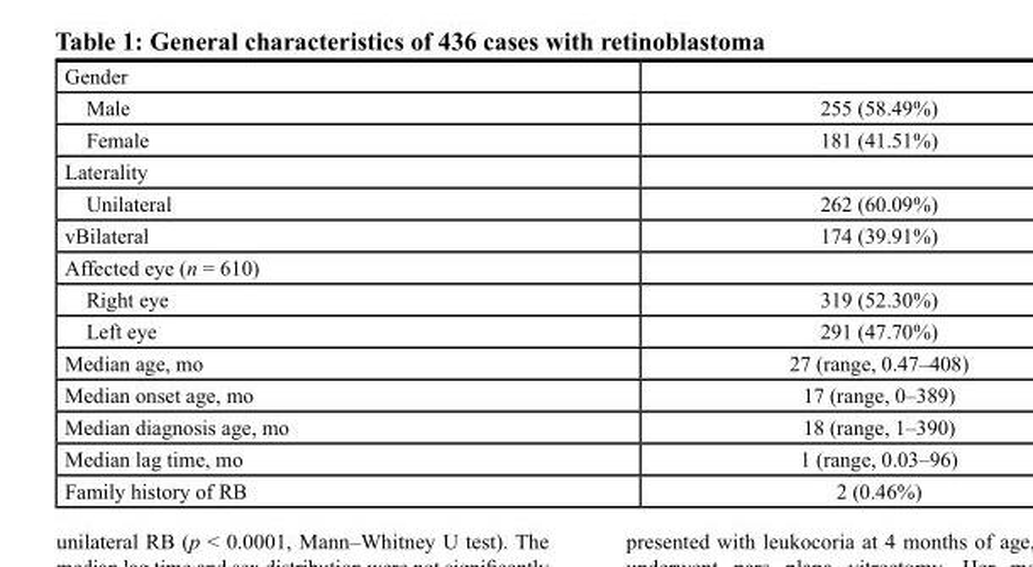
<table><tbody><tr><td colspan="2">Gender</td></tr><tr><td>Male</td><td>255 (58.49%)</td></tr><tr><td>Female</td><td>181 (41.51%)</td></tr><tr><td colspan="2">Laterality</td></tr><tr><td>Unilateral</td><td>262 (60.09%)</td></tr><tr><td>vBilateral</td><td>174 (39.91%)</td></tr><tr><td colspan="2">Affected eye (n = 610)</td></tr><tr><td>Right eye</td><td>319 (52.30%)</td></tr><tr><td>Left eye</td><td>291 (47.70%)</td></tr><tr><td>Median age, mo</td><td>27 (range, 0.47–408)</td></tr><tr><td>Median onset age, mo</td><td>17 (range, 0–389)</td></tr><tr><td>Median diagnosis age, mo</td><td>18 (range, 1–390)</td></tr><tr><td>Median lag time, mo</td><td>1 (range, 0.03–96)</td></tr><tr><td>Family history of RB</td><td>2 (0.46%)</td></tr></tbody></table>